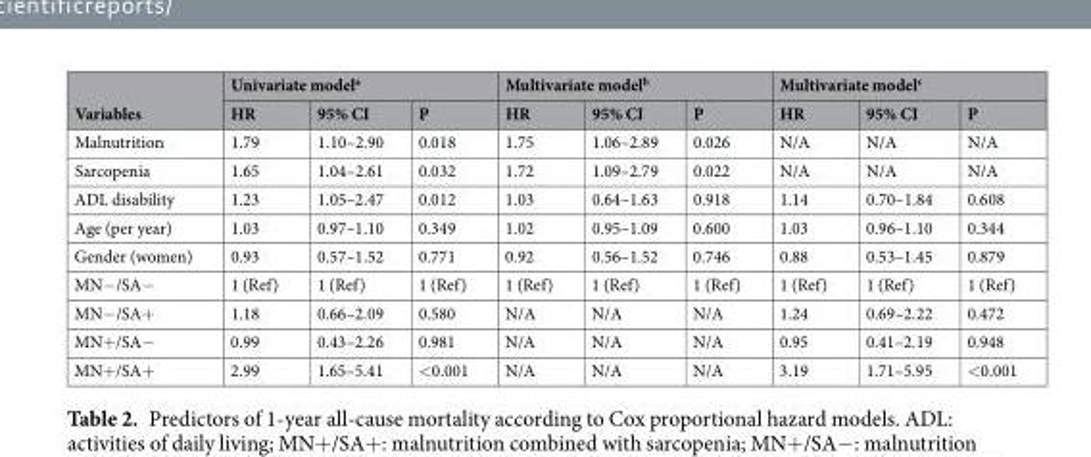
<table><thead><tr><td rowspan="2">Variables</td><td colspan="3">Univariate model<sup>a</sup></td><td colspan="3">Multivariate model<sup>b</sup></td><td colspan="3">Multivariate model<sup>c</sup></td></tr><tr><td>HR</td><td>95% CI</td><td>P</td><td>HR</td><td>95% CI</td><td>P</td><td>HR</td><td>95% CI</td><td>P</td></tr></thead><tbody><tr><td>Malnutrition</td><td>1.79</td><td>1.10–2.90</td><td>0.018</td><td>1.75</td><td>1.06–2.89</td><td>0.026</td><td>N/A</td><td>N/A</td><td>N/A</td></tr><tr><td>Sarcopenia</td><td>1.65</td><td>1.04–2.61</td><td>0.032</td><td>1.72</td><td>1.09–2.79</td><td>0.022</td><td>N/A</td><td>N/A</td><td>N/A</td></tr><tr><td>ADL disability</td><td>1.23</td><td>1.05–2.47</td><td>0.012</td><td>1.03</td><td>0.64–1.63</td><td>0.918</td><td>1.14</td><td>0.70–1.84</td><td>0.608</td></tr><tr><td>Age (per year)</td><td>1.03</td><td>0.97–1.10</td><td>0.349</td><td>1.02</td><td>0.95–1.09</td><td>0.600</td><td>1.03</td><td>0.96–1.10</td><td>0.344</td></tr><tr><td>Gender (women)</td><td>0.93</td><td>0.57–1.52</td><td>0.771</td><td>0.92</td><td>0.56–1.52</td><td>0.746</td><td>0.88</td><td>0.53–1.45</td><td>0.879</td></tr><tr><td>MN−/SA−</td><td>1 (Ref)</td><td>1 (Ref)</td><td>1 (Ref)</td><td>1 (Ref)</td><td>1 (Ref)</td><td>1 (Ref)</td><td>1 (Ref)</td><td>1 (Ref)</td><td>1 (Ref)</td></tr><tr><td>MN−/SA+</td><td>1.18</td><td>0.66–2.09</td><td>0.580</td><td>N/A</td><td>N/A</td><td>N/A</td><td>1.24</td><td>0.69–2.22</td><td>0.472</td></tr><tr><td>MN+/SA−</td><td>0.99</td><td>0.43–2.26</td><td>0.981</td><td>N/A</td><td>N/A</td><td>N/A</td><td>0.95</td><td>0.41–2.19</td><td>0.948</td></tr><tr><td>MN+/SA+</td><td>2.99</td><td>1.65–5.41</td><td>&lt;0.001</td><td>N/A</td><td>N/A</td><td>N/A</td><td>3.19</td><td>1.71–5.95</td><td>&lt;0.001</td></tr></tbody></table>